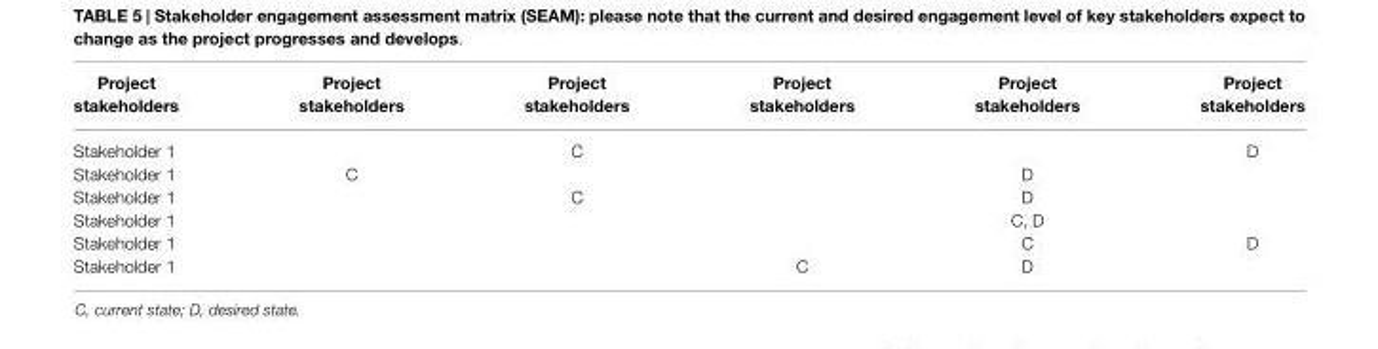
<table><thead><tr><td>Project stakeholders</td><td>Project stakeholders</td><td>Project stakeholders</td><td>Project stakeholders</td><td>Project stakeholders</td><td>Project stakeholders</td></tr></thead><tbody><tr><td>Stakeholder 1</td><td></td><td>C</td><td></td><td></td><td>D</td></tr><tr><td>Stakeholder 1</td><td>C</td><td></td><td></td><td>D</td><td></td></tr><tr><td>Stakeholder 1</td><td></td><td>C</td><td></td><td>D</td><td></td></tr><tr><td>Stakeholder 1</td><td></td><td></td><td></td><td>C, D</td><td></td></tr><tr><td>Stakeholder 1</td><td></td><td></td><td></td><td>C</td><td>D</td></tr><tr><td>Stakeholder 1</td><td></td><td></td><td>C</td><td>D</td><td></td></tr></tbody></table>